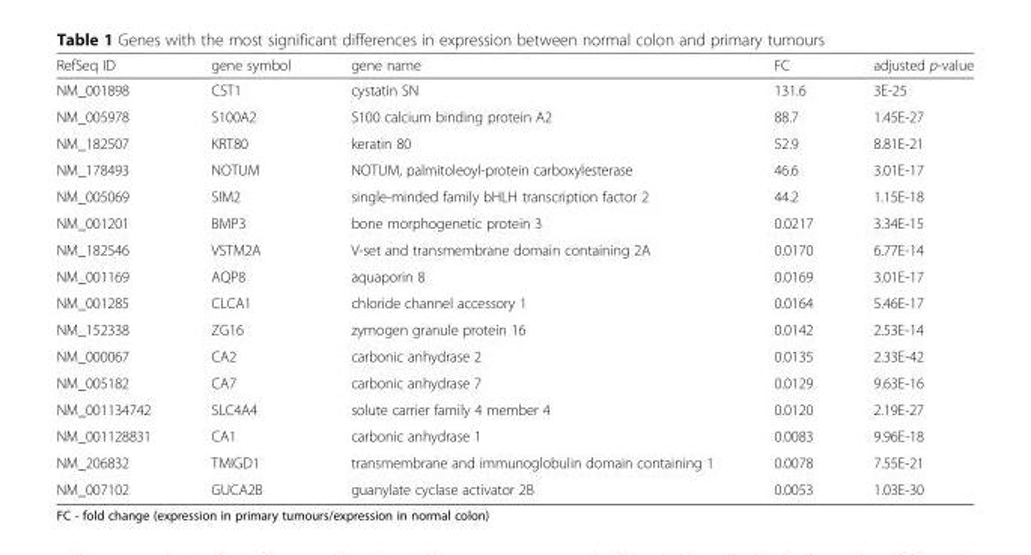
<table><thead><tr><td>RefSeq ID</td><td>gene symbol</td><td>gene name</td><td>FC</td><td>adjusted p-value</td></tr></thead><tbody><tr><td>NM_001898</td><td>CST1</td><td>cystatin SN</td><td>131.6</td><td>3E-25</td></tr><tr><td>NM_005978</td><td>S100A2</td><td>S100 calcium binding protein A2</td><td>88.7</td><td>1.45E-27</td></tr><tr><td>NM_182507</td><td>KRT80</td><td>keratin 80</td><td>52.9</td><td>8.81E-21</td></tr><tr><td>NM_178493</td><td>NOTUM</td><td>NOTUM, palmitoleoyl-protein carboxylesterase</td><td>46.6</td><td>3.01E-17</td></tr><tr><td>NM_005069</td><td>SIM2</td><td>single-minded family bHLH transcription factor 2</td><td>44.2</td><td>1.15E-18</td></tr><tr><td>NM_001201</td><td>BMP3</td><td>bone morphogenetic protein 3</td><td>0.0217</td><td>3.34E-15</td></tr><tr><td>NM_182546</td><td>VSTM2A</td><td>V-set and transmembrane domain containing 2A</td><td>0.0170</td><td>6.77E-14</td></tr><tr><td>NM_001169</td><td>AQP8</td><td>aquaporin 8</td><td>0.0169</td><td>3.01E-17</td></tr><tr><td>NM_001285</td><td>CLCA1</td><td>chloride channel accessory 1</td><td>0.0164</td><td>5.46E-17</td></tr><tr><td>NM_152338</td><td>ZG16</td><td>zymogen granule protein 16</td><td>0.0142</td><td>2.53E-14</td></tr><tr><td>NM_000067</td><td>CA2</td><td>carbonic anhydrase 2</td><td>0.0135</td><td>2.33E-42</td></tr><tr><td>NM_005182</td><td>CA7</td><td>carbonic anhydrase 7</td><td>0.0129</td><td>9.63E-16</td></tr><tr><td>NM_001134742</td><td>SLC4A4</td><td>solute carrier family 4 member 4</td><td>0.0120</td><td>2.19E-27</td></tr><tr><td>NM_001128831</td><td>CA1</td><td>carbonic anhydrase 1</td><td>0.0083</td><td>9.96E-18</td></tr><tr><td>NM_206832</td><td>TMIGD1</td><td>transmembrane and immunoglobulin domain containing 1</td><td>0.0078</td><td>7.55E-21</td></tr><tr><td>NM_007102</td><td>GUCA2B</td><td>guanylate cyclase activator 2B</td><td>0.0053</td><td>1.03E-30</td></tr></tbody></table>